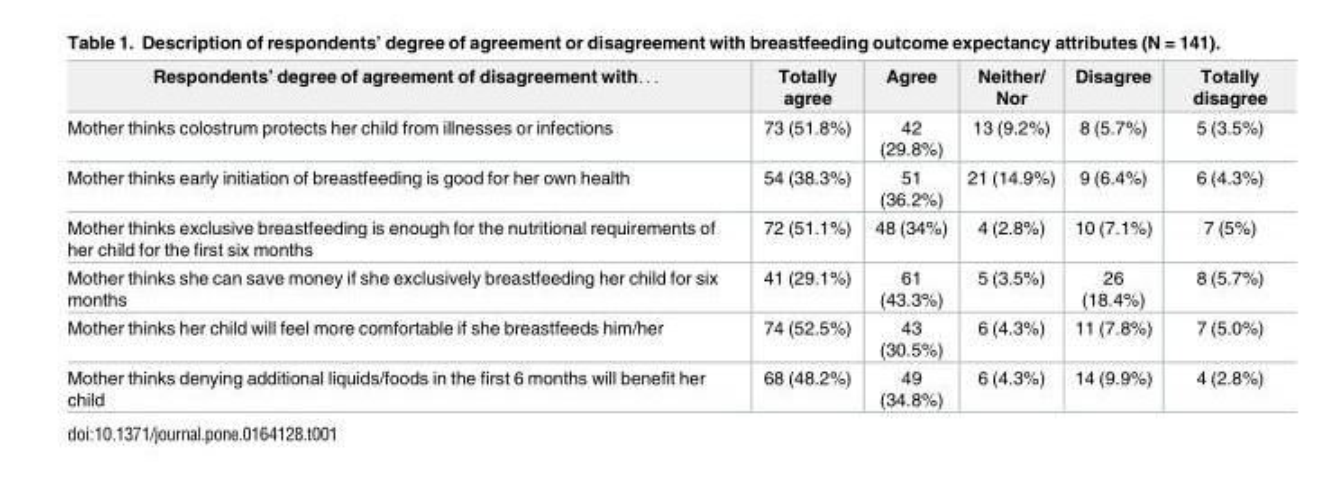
<table><thead><tr><td>Respondents’ degree of agreement of disagreement with. . .</td><td>Totally agree</td><td>Agree</td><td>Neither/ Nor</td><td>Disagree</td><td>Totally disagree</td></tr></thead><tbody><tr><td>Mother thinks colostrum protects her child from illnesses or infections</td><td>73 (51.8%)</td><td>42 (29.8%)</td><td>13 (9.2%)</td><td>8 (5.7%)</td><td>5 (3.5%)</td></tr><tr><td>Mother thinks early initiation of breastfeeding is good for her own health</td><td>54 (38.3%)</td><td>51 (36.2%)</td><td>21 (14.9%)</td><td>9 (6.4%)</td><td>6 (4.3%)</td></tr><tr><td>Mother thinks exclusive breastfeeding is enough for the nutritional requirements of her child for the first six months</td><td>72 (51.1%)</td><td>48 (34%)</td><td>4 (2.8%)</td><td>10 (7.1%)</td><td>7 (5%)</td></tr><tr><td>Mother thinks she can save money if she exclusively breastfeeding her child for six months</td><td>41 (29.1%)</td><td>61 (43.3%)</td><td>5 (3.5%)</td><td>26 (18.4%)</td><td>8 (5.7%)</td></tr><tr><td>Mother thinks her child will feel more comfortable if she breastfeeds him/her</td><td>74 (52.5%)</td><td>43 (30.5%)</td><td>6 (4.3%)</td><td>11 (7.8%)</td><td>7 (5.0%)</td></tr><tr><td>Mother thinks denying additional liquids/foods in the first 6 months will benefit her child</td><td>68 (48.2%)</td><td>49 (34.8%)</td><td>6 (4.3%)</td><td>14 (9.9%)</td><td>4 (2.8%)</td></tr></tbody></table>